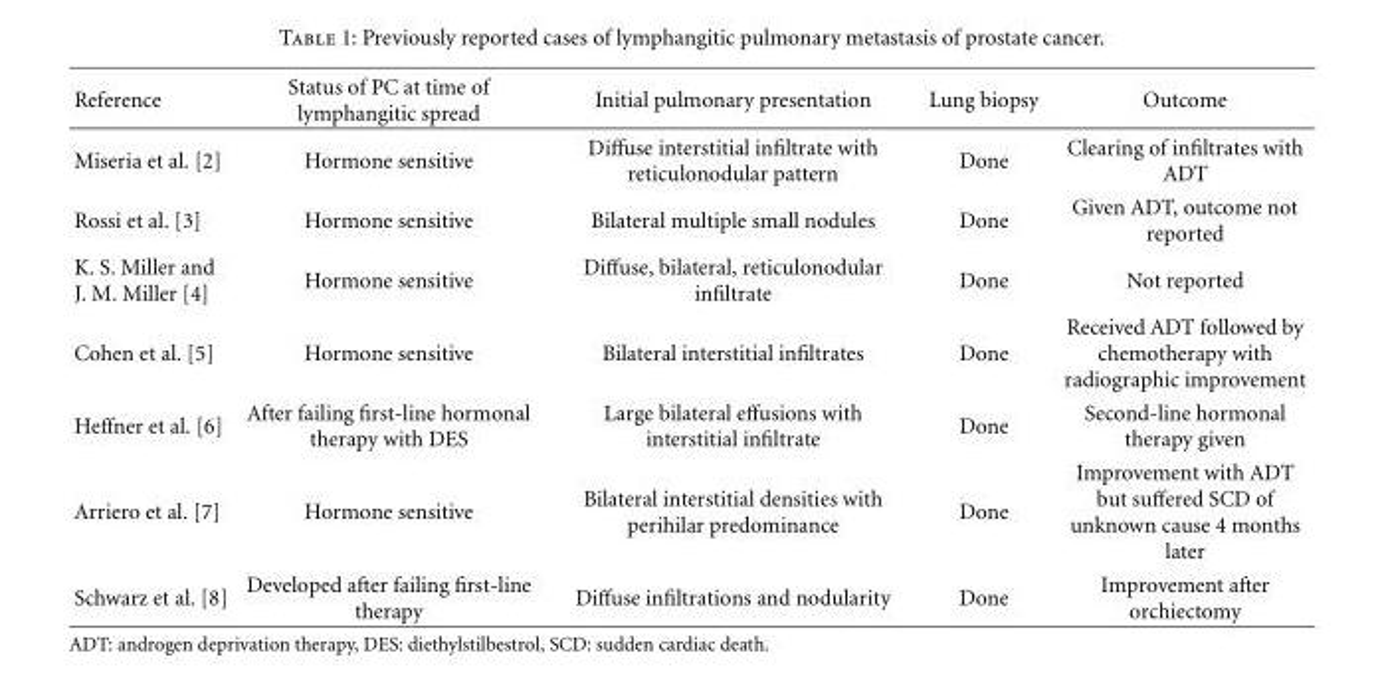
<table><thead><tr><td>Reference</td><td>Status of PC at time of lymphangitic spread</td><td>Initial pulmonary presentation</td><td>Lung biopsy</td><td>Outcome</td></tr></thead><tbody><tr><td>Miseria et al. [2]</td><td>Hormone sensitive</td><td>Diffuse interstitial infiltrate with reticulonodular pattern</td><td>Done</td><td>Clearing of infiltrates with ADT</td></tr><tr><td>Rossi et al. [3]</td><td>Hormone sensitive</td><td>Bilateral multiple small nodules</td><td>Done</td><td>Given ADT, outcome not reported</td></tr><tr><td>K. S. Miller and J. M. Miller [4]</td><td>Hormone sensitive</td><td>Diffuse, bilateral, reticulonodular infiltrate</td><td>Done</td><td>Not reported</td></tr><tr><td>Cohen et al. [5]</td><td>Hormone sensitive</td><td>Bilateral interstitial infiltrates</td><td>Done</td><td>Received ADT followed by chemotherapy with radiographic improvement</td></tr><tr><td>Heffner et al. [6]</td><td>After failing first-line hormonal therapy with DES</td><td>Large bilateral effusions with interstitial infiltrate</td><td>Done</td><td>Second-line hormonal therapy given</td></tr><tr><td>Arriero et al. [7]</td><td>Hormone sensitive</td><td>Bilateral interstitial densities with perihilar predominance</td><td>Done</td><td>Improvement with ADT but suffered SCD of unknown cause 4 months later</td></tr><tr><td>Schwarz et al. [8]</td><td>Developed after failing first-line therapy</td><td>Diffuse infiltrations and nodularity</td><td>Done</td><td>Improvement after orchiectomy</td></tr></tbody></table>